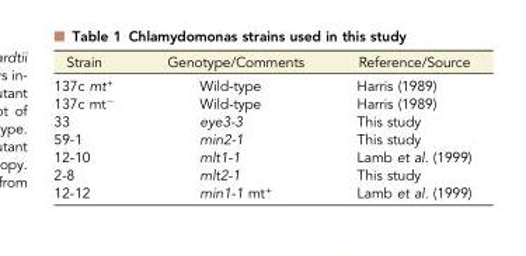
<table><thead><tr><td>Strain</td><td>Genotype/Comments</td><td>Reference/Source</td></tr></thead><tbody><tr><td>137c mt<sup>+</sup></td><td>Wild-type</td><td>Harris (1989)</td></tr><tr><td>137c mt<sup>−</sup></td><td>Wild-type</td><td>Harris (1989)</td></tr><tr><td>33</td><td>eye3-3</td><td>This study</td></tr><tr><td>59-1</td><td>min2-1</td><td>This study</td></tr><tr><td>12-10</td><td>mlt1-1</td><td>Lamb et al. (1999)</td></tr><tr><td>2-8</td><td>mlt2-1</td><td>This study</td></tr><tr><td>12-12</td><td>min1-1 mt<sup>+</sup></td><td>Lamb et al. (1999)</td></tr></tbody></table>